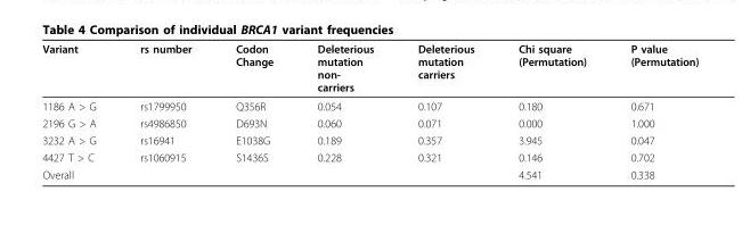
<table><thead><tr><td>Variant</td><td>rs number</td><td>Codon Change</td><td>Deleterious mutation non- carriers</td><td>Deleterious mutation carriers</td><td>Chi square (Permutation)</td><td>P value (Permutation)</td></tr></thead><tbody><tr><td>1186 A &gt; G</td><td>rs1799950</td><td>Q356R</td><td>0.054</td><td>0.107</td><td>0.180</td><td>0.671</td></tr><tr><td>2196 G &gt; A</td><td>rs4986850</td><td>D693N</td><td>0.060</td><td>0.071</td><td>0.000</td><td>1.000</td></tr><tr><td>3232 A &gt; G</td><td>rs16941</td><td>E1038G</td><td>0.189</td><td>0.357</td><td>3.945</td><td>0.047</td></tr><tr><td>4427 T &gt; C</td><td>rs1060915</td><td>S1436S</td><td>0.228</td><td>0.321</td><td>0.146</td><td>0.702</td></tr><tr><td>Overall</td><td></td><td></td><td></td><td></td><td>4.541</td><td>0.338</td></tr></tbody></table>